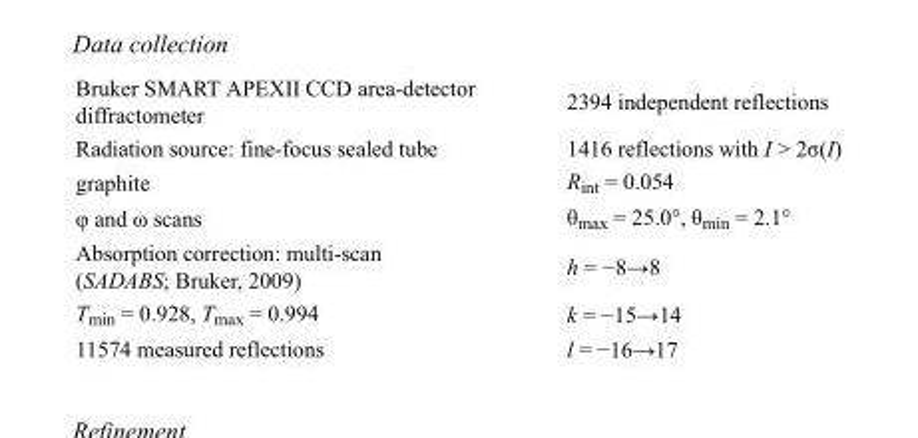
<table><tbody><tr><td>Bruker SMART APEXII CCD area-detector diffractometer</td><td>2394 independent reflections</td></tr><tr><td>Radiation source: fine-focus sealed tube</td><td>1416 reflections with I &gt; 2σ(I)</td></tr><tr><td>graphite</td><td>R<sub>int</sub> = 0.054</td></tr><tr><td>φ and ω scans</td><td>θ<sub>max</sub> = 25.0°, θ<sub>min</sub> = 2.1°</td></tr><tr><td>Absorption correction: multi-scan (SADABS; Bruker, 2009)</td><td>h = −8→8</td></tr><tr><td>T<sub>min</sub> = 0.928, T<sub>max</sub> = 0.994</td><td>k = −15→14</td></tr><tr><td>11574 measured reflections</td><td>l = −16→17</td></tr></tbody></table>